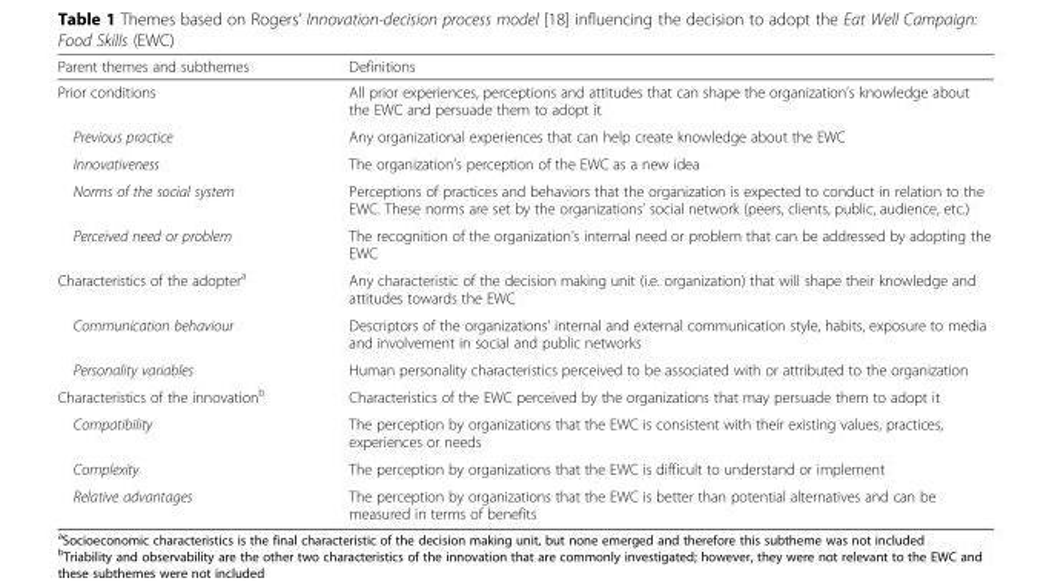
<table><thead><tr><td>Parent themes and subthemes</td><td>Definitions</td></tr></thead><tbody><tr><td>Prior conditions</td><td>All prior experiences, perceptions and attitudes that can shape the organization’s knowledge about the EWC and persuade them to adopt it</td></tr><tr><td>Previous practice</td><td>Any organizational experiences that can help create knowledge about the EWC</td></tr><tr><td>Innovativeness</td><td>The organization’s perception of the EWC as a new idea</td></tr><tr><td>Norms of the social system</td><td>Perceptions of practices and behaviors that the organization is expected to conduct in relation to the EWC. These norms are set by the organizations’ social network (peers, clients, public, audience, etc.)</td></tr><tr><td>Perceived need or problem</td><td>The recognition of the organization’s internal need or problem that can be addressed by adopting the EWC</td></tr><tr><td>Characteristics of the adopter<sup>a</sup></td><td>Any characteristic of the decision making unit (i.e. organization) that will shape their knowledge and attitudes towards the EWC</td></tr><tr><td>Communication behaviour</td><td>Descriptors of the organizations’ internal and external communication style, habits, exposure to media and involvement in social and public networks</td></tr><tr><td>Personality variables</td><td>Human personality characteristics perceived to be associated with or attributed to the organization</td></tr><tr><td>Characteristics of the innovation<sup>b</sup></td><td>Characteristics of the EWC perceived by the organizations that may persuade them to adopt it</td></tr><tr><td>Compatibility</td><td>The perception by organizations that the EWC is consistent with their existing values, practices, experiences or needs</td></tr><tr><td>Complexity</td><td>The perception by organizations that the EWC is difficult to understand or implement</td></tr><tr><td>Relative advantages</td><td>The perception by organizations that the EWC is better than potential alternatives and can be measured in terms of benefits</td></tr></tbody></table>